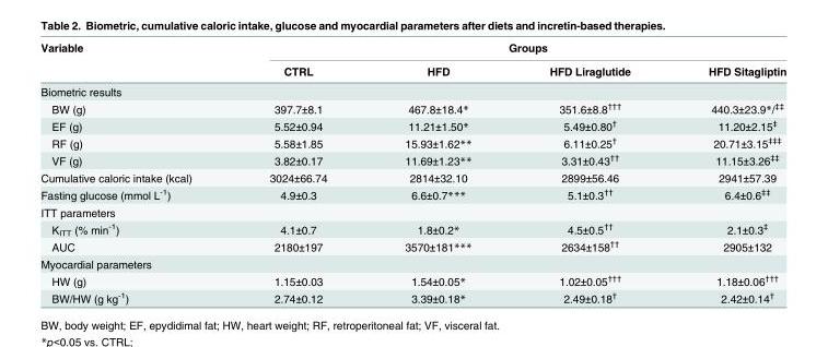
<table><thead><tr><td rowspan="2">Variable</td><td colspan="4">Groups</td></tr><tr><td>CTRL</td><td>HFD</td><td>HFD Liraglutide</td><td>HFD Sitagliptin</td></tr></thead><tbody><tr><td colspan="5">Biometric results</td></tr><tr><td>BW (g)</td><td>397.7±8.1</td><td>467.8±18.4*</td><td>351.6±8.8<sup>†††</sup></td><td>440.3±23.9*/<sup>‡‡</sup></td></tr><tr><td>EF (g)</td><td>5.52±0.94</td><td>11.21±1.50*</td><td>5.49±0.80<sup>†</sup></td><td>11.20±2.15<sup>‡</sup></td></tr><tr><td>RF (g)</td><td>5.58±1.85</td><td>15.93±1.62**</td><td>6.11±0.25<sup>†</sup></td><td>20.71±3.15<sup>‡‡‡</sup></td></tr><tr><td>VF (g)</td><td>3.82±0.17</td><td>11.69±1.23**</td><td>3.31±0.43<sup>††</sup></td><td>11.15±3.26<sup>‡‡</sup></td></tr><tr><td>Cumulative caloric intake (kcal)</td><td>3024±66.74</td><td>2814±32.10</td><td>2899±56.46</td><td>2941±57.39</td></tr><tr><td>Fasting glucose (mmol L<sup>-1</sup>)</td><td>4.9±0.3</td><td>6.6±0.7***</td><td>5.1±0.3<sup>††</sup></td><td>6.4±0.6<sup>‡‡</sup></td></tr><tr><td colspan="5">ITT parameters</td></tr><tr><td>K<sub>ITT</sub> (% min<sup>-1</sup>)</td><td>4.1±0.7</td><td>1.8±0.2*</td><td>4.5±0.5<sup>††</sup></td><td>2.1±0.3<sup>‡</sup></td></tr><tr><td>AUC</td><td>2180±197</td><td>3570±181***</td><td>2634±158<sup>††</sup></td><td>2905±132</td></tr><tr><td colspan="5">Myocardial parameters</td></tr><tr><td>HW (g)</td><td>1.15±0.03</td><td>1.54±0.05*</td><td>1.02±0.05<sup>†††</sup></td><td>1.18±0.06<sup>†††</sup></td></tr><tr><td>BW/HW (g kg<sup>-1</sup>)</td><td>2.74±0.12</td><td>3.39±0.18*</td><td>2.49±0.18<sup>†</sup></td><td>2.42±0.14<sup>†</sup></td></tr></tbody></table>